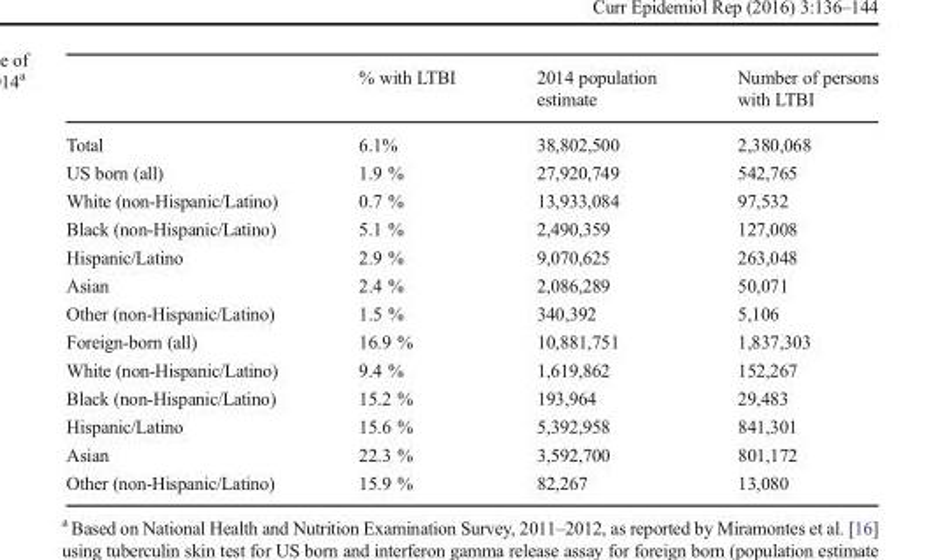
<table><thead><tr><td></td><td>% with LTBI</td><td>2014 population estimate</td><td>Number of persons with LTBI</td></tr></thead><tbody><tr><td>Total</td><td>6.1%</td><td>38,802,500</td><td>2,380,068</td></tr><tr><td>US born (all)</td><td>1.9 %</td><td>27,920,749</td><td>542,765</td></tr><tr><td>White (non-Hispanic/Latino)</td><td>0.7 %</td><td>13,933,084</td><td>97,532</td></tr><tr><td>Black (non-Hispanic/Latino)</td><td>5.1 %</td><td>2,490,359</td><td>127,008</td></tr><tr><td>Hispanic/Latino</td><td>2.9 %</td><td>9,070,625</td><td>263,048</td></tr><tr><td>Asian</td><td>2.4 %</td><td>2,086,289</td><td>50,071</td></tr><tr><td>Other (non-Hispanic/Latino)</td><td>1.5 %</td><td>340,392</td><td>5,106</td></tr><tr><td>Foreign-born (all)</td><td>16.9 %</td><td>10,881,751</td><td>1,837,303</td></tr><tr><td>White (non-Hispanic/Latino)</td><td>9.4 %</td><td>1,619,862</td><td>152,267</td></tr><tr><td>Black (non-Hispanic/Latino)</td><td>15.2 %</td><td>193,964</td><td>29,483</td></tr><tr><td>Hispanic/Latino</td><td>15.6 %</td><td>5,392,958</td><td>841,301</td></tr><tr><td>Asian</td><td>22.3 %</td><td>3,592,700</td><td>801,172</td></tr><tr><td>Other (non-Hispanic/Latino)</td><td>15.9 %</td><td>82,267</td><td>13,080</td></tr></tbody></table>